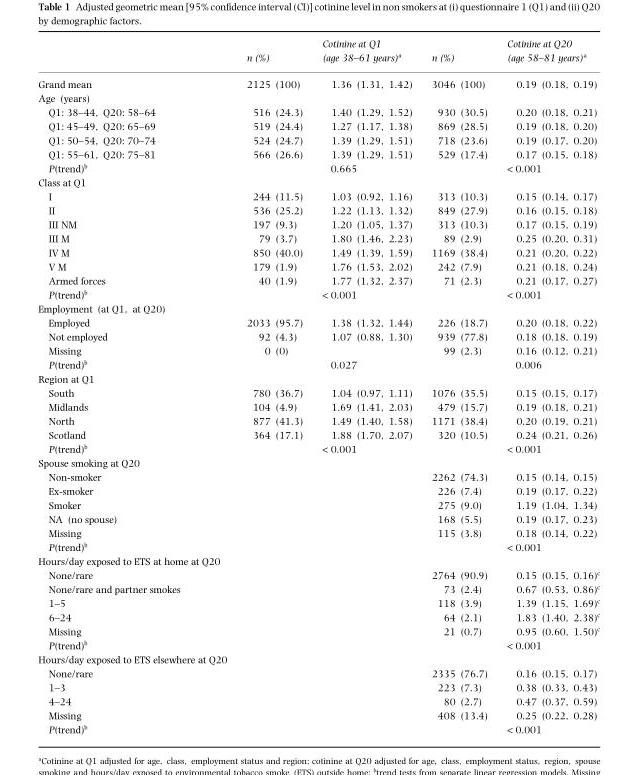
<table><thead><tr><td></td><td>n (%)</td><td>Cotinine at Q1 (age 38–61 years)<sup>a</sup></td><td>n (%)</td><td>Cotinine at Q20 (age 58–81 years)<sup>a</sup></td></tr></thead><tbody><tr><td>Grand mean</td><td>2125 (100)</td><td>1.36 (1.31, 1.42)</td><td>3046 (100)</td><td>0.19 (0.18, 0.19)</td></tr><tr><td colspan="5">Age (years)</td></tr><tr><td>Q1: 38–44, Q20: 58–64</td><td>516 (24.3)</td><td>1.40 (1.29, 1.52)</td><td>930 (30.5)</td><td>0.20 (0.18, 0.21)</td></tr><tr><td>Q1: 45–49, Q20: 65–69</td><td>519 (24.4)</td><td>1.27 (1.17, 1.38)</td><td>869 (28.5)</td><td>0.19 (0.18, 0.20)</td></tr><tr><td>Q1: 50–54, Q20: 70–74</td><td>524 (24.7)</td><td>1.39 (1.29, 1.51)</td><td>718 (23.6)</td><td>0.19 (0.17, 0.20)</td></tr><tr><td>Q1: 55–61, Q20: 75–81</td><td>566 (26.6)</td><td>1.39 (1.29, 1.51)</td><td>529 (17.4)</td><td>0.17 (0.15, 0.18)</td></tr><tr><td>P(trend)<sup>b</sup></td><td></td><td>0.665</td><td></td><td>&lt; 0.001</td></tr><tr><td colspan="5">Class at Q1</td></tr><tr><td>I</td><td>244 (11.5)</td><td>1.03 (0.92, 1.16)</td><td>313 (10.3)</td><td>0.15 (0.14, 0.17)</td></tr><tr><td>II</td><td>536 (25.2)</td><td>1.22 (1.13, 1.32)</td><td>849 (27.9)</td><td>0.16 (0.15, 0.18)</td></tr><tr><td>III NM</td><td>197 (9.3)</td><td>1.20 (1.05, 1.37)</td><td>313 (10.3)</td><td>0.17 (0.15, 0.19)</td></tr><tr><td>III M</td><td>79 (3.7)</td><td>1.80 (1.46, 2.23)</td><td>89 (2.9)</td><td>0.25 (0.20, 0.31)</td></tr><tr><td>IV M</td><td>850 (40.0)</td><td>1.49 (1.39, 1.59)</td><td>1169 (38.4)</td><td>0.21 (0.20, 0.22)</td></tr><tr><td>V M</td><td>179 (1.9)</td><td>1.76 (1.53, 2.02)</td><td>242 (7.9)</td><td>0.21 (0.18, 0.24)</td></tr><tr><td>Armed forces</td><td>40 (1.9)</td><td>1.77 (1.32, 2.37)</td><td>71 (2.3)</td><td>0.21 (0.17, 0.27)</td></tr><tr><td>P(trend)<sup>b</sup></td><td></td><td>&lt; 0.001</td><td></td><td>&lt; 0.001</td></tr><tr><td colspan="5">Employment (at Q1, at Q20)</td></tr><tr><td>Employed</td><td>2033 (95.7)</td><td>1.38 (1.32, 1.44)</td><td>226 (18.7)</td><td>0.20 (0.18, 0.22)</td></tr><tr><td>Not employed</td><td>92 (4.3)</td><td>1.07 (0.88, 1.30)</td><td>939 (77.8)</td><td>0.18 (0.18, 0.19)</td></tr><tr><td>Missing</td><td>0 (0)</td><td></td><td>99 (2.3)</td><td>0.16 (0.12, 0.21)</td></tr><tr><td>P(trend)<sup>b</sup></td><td></td><td>0.027</td><td></td><td>0.006</td></tr><tr><td colspan="5">Region at Q1</td></tr><tr><td>South</td><td>780 (36.7)</td><td>1.04 (0.97, 1.11)</td><td>1076 (35.5)</td><td>0.15 (0.15, 0.17)</td></tr><tr><td>Midlands</td><td>104 (4.9)</td><td>1.69 (1.41, 2.03)</td><td>479 (15.7)</td><td>0.19 (0.18, 0.21)</td></tr><tr><td>North</td><td>877 (41.3)</td><td>1.49 (1.40, 1.58)</td><td>1171 (38.4)</td><td>0.20 (0.19, 0.21)</td></tr><tr><td>Scotland</td><td>364 (17.1)</td><td>1.88 (1.70, 2.07)</td><td>320 (10.5)</td><td>0.24 (0.21, 0.26)</td></tr><tr><td>P(trend)<sup>b</sup></td><td></td><td>&lt; 0.001</td><td></td><td>&lt; 0.001</td></tr><tr><td colspan="5">Spouse smoking at Q20</td></tr><tr><td>Non-smoker</td><td></td><td></td><td>2262 (74.3)</td><td>0.15 (0.14, 0.15)</td></tr><tr><td>Ex-smoker</td><td></td><td></td><td>226 (7.4)</td><td>0.19 (0.17, 0.22)</td></tr><tr><td>Smoker</td><td></td><td></td><td>275 (9.0)</td><td>1.19 (1.04, 1.34)</td></tr><tr><td>NA (no spouse)</td><td></td><td></td><td>168 (5.5)</td><td>0.19 (0.17, 0.23)</td></tr><tr><td>Missing</td><td></td><td></td><td>115 (3.8)</td><td>0.18 (0.14, 0.22)</td></tr><tr><td>P(trend)<sup>b</sup></td><td></td><td></td><td></td><td>&lt; 0.001</td></tr><tr><td colspan="5">Hours/day exposed to ETS at home at Q20</td></tr><tr><td>None/rare</td><td></td><td></td><td>2764 (90.9)</td><td>0.15 (0.15, 0.16)<sup>c</sup></td></tr><tr><td>None/rare and partner smokes</td><td></td><td></td><td>73 (2.4)</td><td>0.67 (0.53, 0.86)<sup>c</sup></td></tr><tr><td>1–5</td><td></td><td></td><td>118 (3.9)</td><td>1.39 (1.15, 1.69)<sup>c</sup></td></tr><tr><td>6–24</td><td></td><td></td><td>64 (2.1)</td><td>1.83 (1.40, 2.38)<sup>c</sup></td></tr><tr><td>Missing</td><td></td><td></td><td>21 (0.7)</td><td>0.95 (0.60, 1.50)<sup>c</sup></td></tr><tr><td>P(trend)<sup>b</sup></td><td></td><td></td><td></td><td>&lt; 0.001</td></tr><tr><td colspan="5">Hours/day exposed to ETS elsewhere at Q20</td></tr><tr><td>None/rare</td><td></td><td></td><td>2335 (76.7)</td><td>0.16 (0.15, 0.17)</td></tr><tr><td>1–3</td><td></td><td></td><td>223 (7.3)</td><td>0.38 (0.33, 0.43)</td></tr><tr><td>4–24</td><td></td><td></td><td>80 (2.7)</td><td>0.47 (0.37, 0.59)</td></tr><tr><td>Missing</td><td></td><td></td><td>408 (13.4)</td><td>0.25 (0.22, 0.28)</td></tr><tr><td>P(trend)<sup>b</sup></td><td></td><td></td><td></td><td>&lt; 0.001</td></tr></tbody></table>